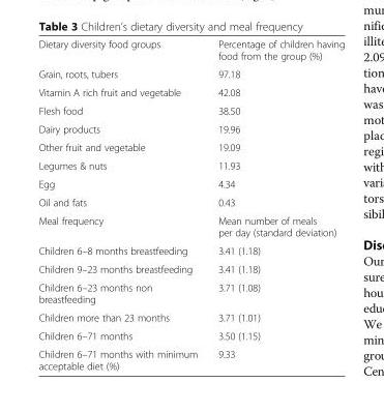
<table><tbody><tr><td>Dietary diversity food groups</td><td>Percentage of children having food from the group (%)</td></tr><tr><td>Grain, roots, tubers</td><td>97.18</td></tr><tr><td>Vitamin A rich fruit and vegetable</td><td>42.08</td></tr><tr><td>Flesh food</td><td>38.50</td></tr><tr><td>Dairy products</td><td>19.96</td></tr><tr><td>Other fruit and vegetable</td><td>19.09</td></tr><tr><td>Legumes &amp; nuts</td><td>11.93</td></tr><tr><td>Egg</td><td>4.34</td></tr><tr><td>Oil and fats</td><td>0.43</td></tr><tr><td>Meal frequency</td><td>Mean number of meals per day (standard deviation)</td></tr><tr><td>Children 6–8 months breastfeeding</td><td>3.41 (1.18)</td></tr><tr><td>Children 9–23 months breastfeeding</td><td>3.41 (1.18)</td></tr><tr><td>Children 6–23 months non breastfeeding</td><td>3.71 (1.08)</td></tr><tr><td>Children more than 23 months</td><td>3.71 (1.01)</td></tr><tr><td>Children 6–71 months</td><td>3.50 (1.15)</td></tr><tr><td>Children 6–71 months with minimum acceptable diet (%)</td><td>9.33</td></tr></tbody></table>